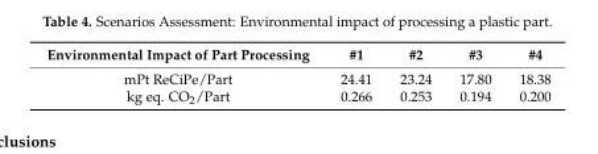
<table><thead><tr><td>Environmental Impact of Part Processing</td><td>#1</td><td>#2</td><td>#3</td><td>#4</td></tr></thead><tbody><tr><td>mPt ReCiPe/Part</td><td>24.41</td><td>23.24</td><td>17.80</td><td>18.38</td></tr><tr><td>kg eq. CO<sub>2</sub>/Part</td><td>0.266</td><td>0.253</td><td>0.194</td><td>0.200</td></tr></tbody></table>